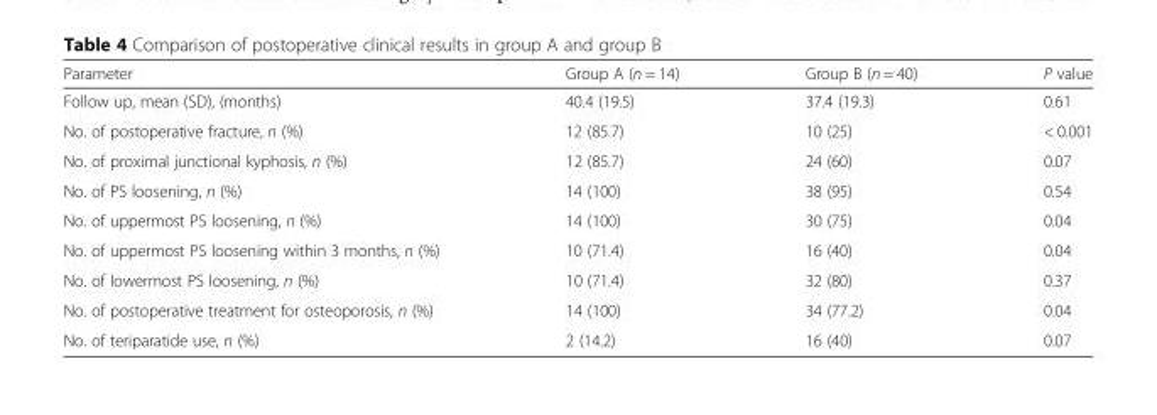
<table><thead><tr><td>Parameter</td><td>Group A (n = 14)</td><td>Group B (n = 40)</td><td>P value</td></tr></thead><tbody><tr><td>Follow up, mean (SD), (months)</td><td>40.4 (19.5)</td><td>37.4 (19.3)</td><td>0.61</td></tr><tr><td>No. of postoperative fracture, n (%)</td><td>12 (85.7)</td><td>10 (25)</td><td>&lt; 0.001</td></tr><tr><td>No. of proximal junctional kyphosis, n (%)</td><td>12 (85.7)</td><td>24 (60)</td><td>0.07</td></tr><tr><td>No. of PS loosening, n (%)</td><td>14 (100)</td><td>38 (95)</td><td>0.54</td></tr><tr><td>No. of uppermost PS loosening, n (%)</td><td>14 (100)</td><td>30 (75)</td><td>0.04</td></tr><tr><td>No. of uppermost PS loosening within 3 months, n (%)</td><td>10 (71.4)</td><td>16 (40)</td><td>0.04</td></tr><tr><td>No. of lowermost PS loosening, n (%)</td><td>10 (71.4)</td><td>32 (80)</td><td>0.37</td></tr><tr><td>No. of postoperative treatment for osteoporosis, n (%)</td><td>14 (100)</td><td>34 (77.2)</td><td>0.04</td></tr><tr><td>No. of teriparatide use, n (%)</td><td>2 (14.2)</td><td>16 (40)</td><td>0.07</td></tr></tbody></table>